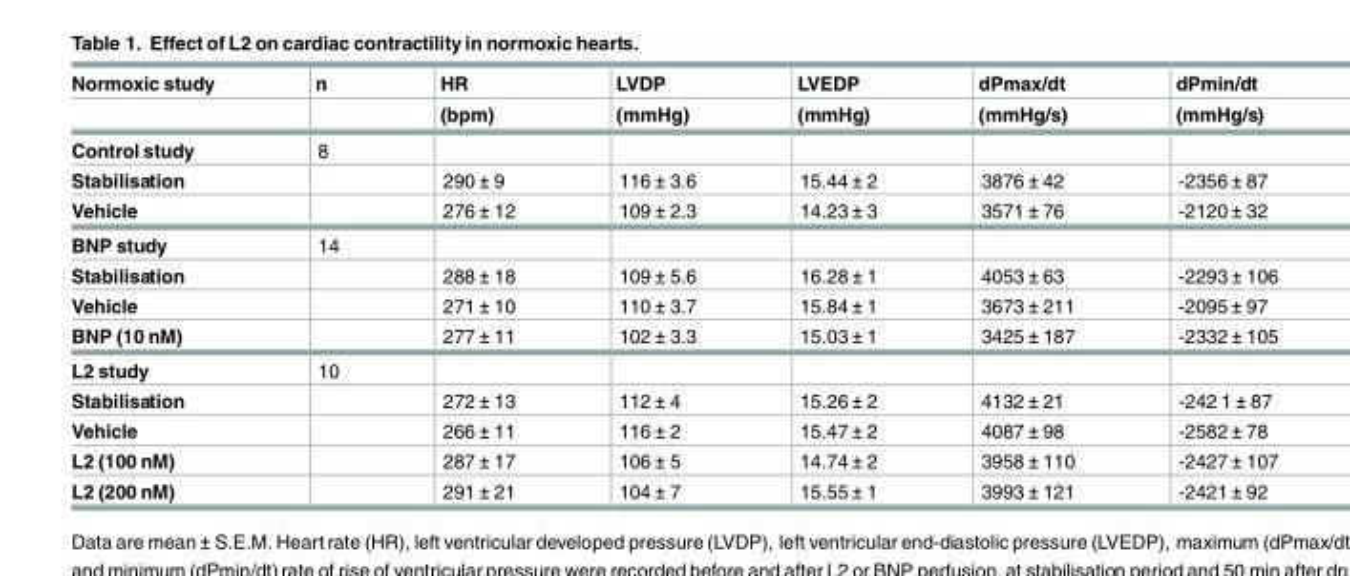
<table><thead><tr><td rowspan="2">Normoxic study</td><td rowspan="2">n</td><td rowspan="2">HR (bpm)</td><td rowspan="2">LVDP (mmHg)</td><td rowspan="2">LVEDP (mmHg)</td><td rowspan="2">dPmax/dt (mmHg/s)</td><td rowspan="2">dPmin/dt (mmHg/s)</td></tr><tr></tr></thead><tbody><tr><td>Control study</td><td>8</td><td></td><td></td><td></td><td></td><td></td></tr><tr><td>Stabilisation</td><td></td><td>290 ± 9</td><td>116 ± 3.6</td><td>15.44 ± 2</td><td>3876 ± 42</td><td>-2356 ± 87</td></tr><tr><td>Vehicle</td><td></td><td>276 ± 12</td><td>109 ± 2.3</td><td>14.23 ± 3</td><td>3571 ± 76</td><td>-2120 ± 32</td></tr><tr><td>BNP study</td><td>14</td><td></td><td></td><td></td><td></td><td></td></tr><tr><td>Stabilisation</td><td></td><td>288 ± 18</td><td>109 ± 5.6</td><td>16.28 ± 1</td><td>4053 ± 63</td><td>-2293 ± 106</td></tr><tr><td>Vehicle</td><td></td><td>271 ± 10</td><td>110 ± 3.7</td><td>15.84 ± 1</td><td>3673 ± 211</td><td>-2095 ± 97</td></tr><tr><td>BNP (10 nM)</td><td></td><td>277 ± 11</td><td>102 ± 3.3</td><td>15.03 ± 1</td><td>3425 ± 187</td><td>-2332 ± 105</td></tr><tr><td>L2 study</td><td>10</td><td></td><td></td><td></td><td></td><td></td></tr><tr><td>Stabilisation</td><td></td><td>272 ± 13</td><td>112 ± 4</td><td>15.26 ± 2</td><td>4132 ± 21</td><td>-242 1 ± 87</td></tr><tr><td>Vehicle</td><td></td><td>266 ± 11</td><td>116 ± 2</td><td>15.47 ± 2</td><td>4087 ± 98</td><td>-2582 ± 78</td></tr><tr><td>L2 (100 nM)</td><td></td><td>287 ± 17</td><td>106 ± 5</td><td>14.74 ± 2</td><td>3958 ± 110</td><td>-2427 ± 107</td></tr><tr><td>L2 (200 nM)</td><td></td><td>291 ± 21</td><td>104 ± 7</td><td>15.55 ± 1</td><td>3993 ± 121</td><td>-2421 ± 92</td></tr></tbody></table>